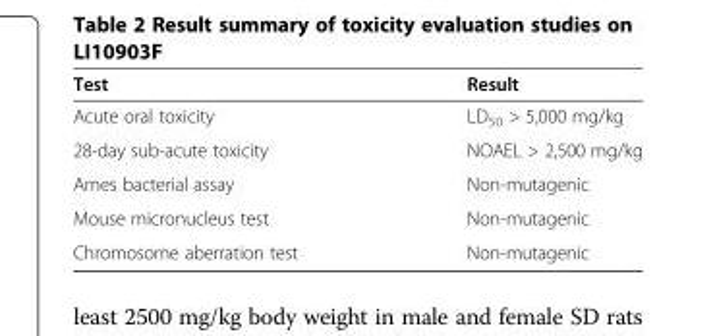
<table><thead><tr><td>Test</td><td>Result</td></tr></thead><tbody><tr><td>Acute oral toxicity</td><td>LD<sub>50</sub> &gt; 5,000 mg/kg</td></tr><tr><td>28-day sub-acute toxicity</td><td>NOAEL &gt; 2,500 mg/kg</td></tr><tr><td>Ames bacterial assay</td><td>Non-mutagenic</td></tr><tr><td>Mouse micronucleus test</td><td>Non-mutagenic</td></tr><tr><td>Chromosome aberration test</td><td>Non-mutagenic</td></tr></tbody></table>